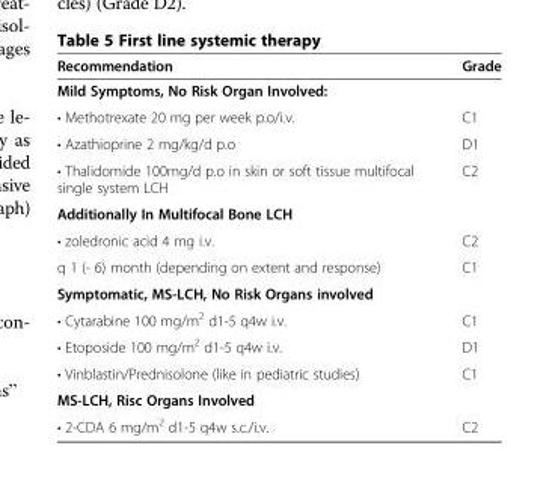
<table><thead><tr><td>Recommendation</td><td>Grade</td></tr></thead><tbody><tr><td colspan="2">Mild Symptoms, No Risk Organ Involved:</td></tr><tr><td>• Methotrexate 20 mg per week p.o/i.v.</td><td>C1</td></tr><tr><td>• Azathioprine 2 mg/kg/d p.o</td><td>D1</td></tr><tr><td>• Thalidomide 100mg/d p.o in skin or soft tissue multifocal single system LCH</td><td>C2</td></tr><tr><td colspan="2">Additionally In Multifocal Bone LCH</td></tr><tr><td>• zoledronic acid 4 mg i.v.</td><td>C2</td></tr><tr><td>q 1 (- 6) month (depending on extent and response)</td><td>C1</td></tr><tr><td colspan="2">Symptomatic, MS-LCH, No Risk Organs involved</td></tr><tr><td>• Cytarabine 100 mg/m<sup>2</sup> d1-5 q4w i.v.</td><td>C1</td></tr><tr><td>• Etoposide 100 mg/m<sup>2</sup> d1-5 q4w i.v.</td><td>D1</td></tr><tr><td>• Vinblastin/Prednisolone (like in pediatric studies)</td><td>C1</td></tr><tr><td colspan="2">MS-LCH, Risc Organs Involved</td></tr><tr><td>• 2-CDA 6 mg/m<sup>2</sup> d1-5 q4w s.c./i.v.</td><td>C2</td></tr></tbody></table>